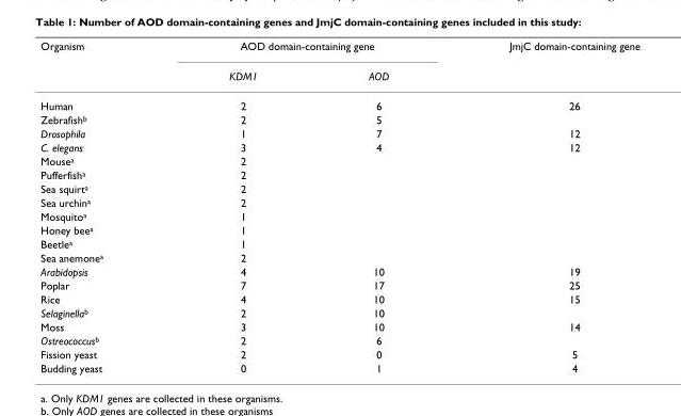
<table><thead><tr><td rowspan="2">Organism</td><td colspan="2">AOD domain-containing gene</td><td rowspan="2">JmjC domain-containing gene</td></tr><tr><td>KDM1</td><td>AOD</td></tr></thead><tbody><tr><td>Human</td><td>2</td><td>6</td><td>26</td></tr><tr><td>Zebrafish<sup>b</sup></td><td>2</td><td>5</td><td></td></tr><tr><td>Drosophila</td><td>1</td><td>7</td><td>12</td></tr><tr><td>C. elegans</td><td>3</td><td>4</td><td>12</td></tr><tr><td>Mouse<sup>a</sup></td><td>2</td><td></td><td></td></tr><tr><td>Pufferfish<sup>a</sup></td><td>2</td><td></td><td></td></tr><tr><td>Sea squirt<sup>a</sup></td><td>2</td><td></td><td></td></tr><tr><td>Sea urchin<sup>a</sup></td><td>2</td><td></td><td></td></tr><tr><td>Mosquito<sup>a</sup></td><td>1</td><td></td><td></td></tr><tr><td>Honey bee<sup>a</sup></td><td>1</td><td></td><td></td></tr><tr><td>Beetle<sup>a</sup></td><td>1</td><td></td><td></td></tr><tr><td>Sea anemone<sup>a</sup></td><td>2</td><td></td><td></td></tr><tr><td>Arabidopsis</td><td>4</td><td>10</td><td>19</td></tr><tr><td>Poplar</td><td>7</td><td>17</td><td>25</td></tr><tr><td>Rice</td><td>4</td><td>10</td><td>15</td></tr><tr><td>Selaginella<sup>b</sup></td><td>2</td><td>10</td><td></td></tr><tr><td>Moss</td><td>3</td><td>10</td><td>14</td></tr><tr><td>Ostreococcus<sup>b</sup></td><td>2</td><td>6</td><td></td></tr><tr><td>Fission yeast</td><td>2</td><td>0</td><td>5</td></tr><tr><td>Budding yeast</td><td>0</td><td>1</td><td>4</td></tr></tbody></table>